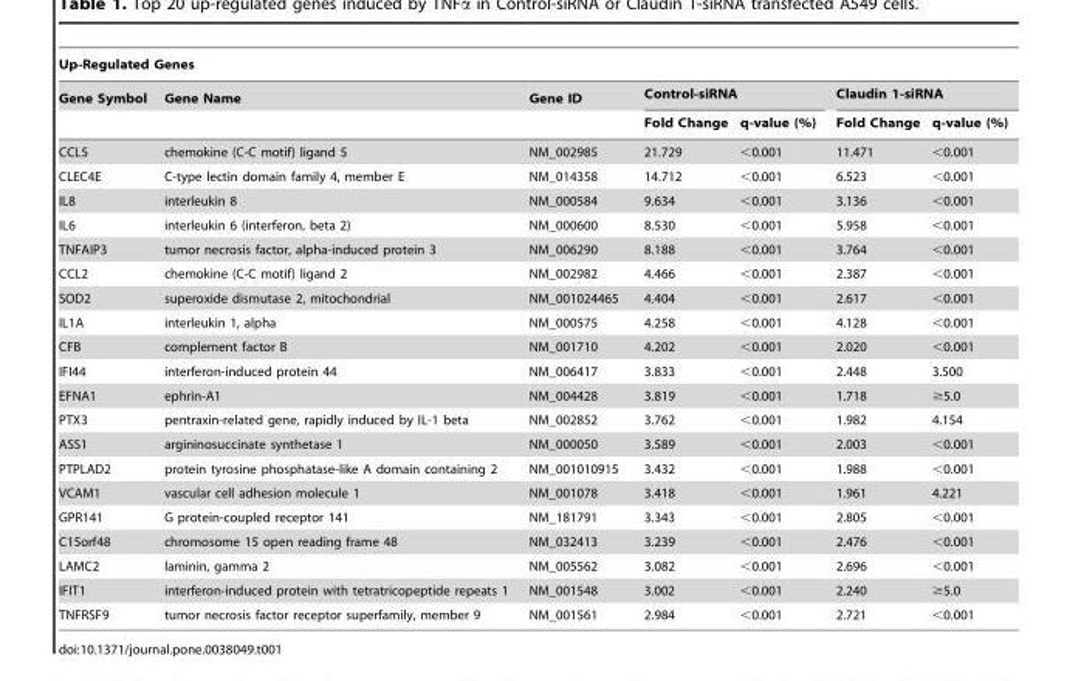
<table><thead><tr><td colspan="7">Up-Regulated Genes</td></tr><tr><td rowspan="2">Gene Symbol</td><td rowspan="2">Gene Name</td><td rowspan="2">Gene ID</td><td colspan="2">Control-siRNA</td><td colspan="2">Claudin 1-siRNA</td></tr><tr><td>Fold Change</td><td>q-value (%)</td><td>Fold Change</td><td>q-value (%)</td></tr></thead><tbody><tr><td>CCL5</td><td>chemokine (C-C motif) ligand 5</td><td>NM_002985</td><td>21.729</td><td>&lt;0.001</td><td>11.471</td><td>&lt;0.001</td></tr><tr><td>CLEC4E</td><td>C-type lectin domain family 4, member E</td><td>NM_014358</td><td>14.712</td><td>&lt;0.001</td><td>6.523</td><td>&lt;0.001</td></tr><tr><td>IL8</td><td>interleukin 8</td><td>NM_000584</td><td>9.634</td><td>&lt;0.001</td><td>3.136</td><td>&lt;0.001</td></tr><tr><td>IL6</td><td>interleukin 6 (interferon, beta 2)</td><td>NM_000600</td><td>8.530</td><td>&lt;0.001</td><td>5.958</td><td>&lt;0.001</td></tr><tr><td>TNFAIP3</td><td>tumor necrosis factor, alpha-induced protein 3</td><td>NM_006290</td><td>8.188</td><td>&lt;0.001</td><td>3.764</td><td>&lt;0.001</td></tr><tr><td>CCL2</td><td>chemokine (C-C motif) ligand 2</td><td>NM_002982</td><td>4.466</td><td>&lt;0.001</td><td>2.387</td><td>&lt;0.001</td></tr><tr><td>SOD2</td><td>superoxide dismutase 2, mitochondrial</td><td>NM_001024465</td><td>4.404</td><td>&lt;0.001</td><td>2.617</td><td>&lt;0.001</td></tr><tr><td>IL1A</td><td>interleukin 1, alpha</td><td>NM_000575</td><td>4.258</td><td>&lt;0.001</td><td>4.128</td><td>&lt;0.001</td></tr><tr><td>CFB</td><td>complement factor B</td><td>NM_001710</td><td>4.202</td><td>&lt;0.001</td><td>2.020</td><td>&lt;0.001</td></tr><tr><td>IFI44</td><td>interferon-induced protein 44</td><td>NM_006417</td><td>3.833</td><td>&lt;0.001</td><td>2.448</td><td>3.500</td></tr><tr><td>EFNA1</td><td>ephrin-A1</td><td>NM_004428</td><td>3.819</td><td>&lt;0.001</td><td>1.718</td><td>≥5.0</td></tr><tr><td>PTX3</td><td>pentraxin-related gene, rapidly induced by IL-1 beta</td><td>NM_002852</td><td>3.762</td><td>&lt;0.001</td><td>1.982</td><td>4.154</td></tr><tr><td>ASS1</td><td>argininosuccinate synthetase 1</td><td>NM_000050</td><td>3.589</td><td>&lt;0.001</td><td>2.003</td><td>&lt;0.001</td></tr><tr><td>PTPLAD2</td><td>protein tyrosine phosphatase-like A domain containing 2</td><td>NM_001010915</td><td>3.432</td><td>&lt;0.001</td><td>1.988</td><td>&lt;0.001</td></tr><tr><td>VCAM1</td><td>vascular cell adhesion molecule 1</td><td>NM_001078</td><td>3.418</td><td>&lt;0.001</td><td>1.961</td><td>4.221</td></tr><tr><td>GPR141</td><td>G protein-coupled receptor 141</td><td>NM_181791</td><td>3.343</td><td>&lt;0.001</td><td>2.805</td><td>&lt;0.001</td></tr><tr><td>C15orf48</td><td>chromosome 15 open reading frame 48</td><td>NM_032413</td><td>3.239</td><td>&lt;0.001</td><td>2.476</td><td>&lt;0.001</td></tr><tr><td>LAMC2</td><td>laminin, gamma 2</td><td>NM_005562</td><td>3.082</td><td>&lt;0.001</td><td>2.696</td><td>&lt;0.001</td></tr><tr><td>IFIT1</td><td>interferon-induced protein with tetratricopeptide repeats 1</td><td>NM_001548</td><td>3.002</td><td>&lt;0.001</td><td>2.240</td><td>≥5.0</td></tr><tr><td>TNFRSF9</td><td>tumor necrosis factor receptor superfamily, member 9</td><td>NM_001561</td><td>2.984</td><td>&lt;0.001</td><td>2.721</td><td>&lt;0.001</td></tr></tbody></table>